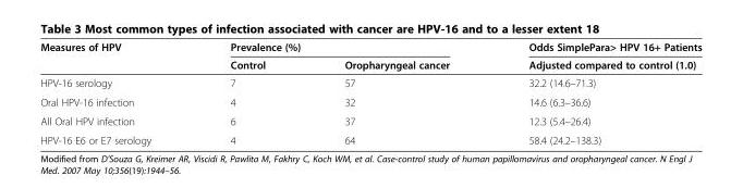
<table><thead><tr><td rowspan="2">Measures of HPV</td><td colspan="2">Prevalence (%)</td><td rowspan="2">Odds SimplePara&gt; HPV 16+ Patients Adjusted compared to control (1.0)</td></tr><tr><td>Control</td><td>Oropharyngeal cancer</td></tr></thead><tbody><tr><td>HPV-16 serology</td><td>7</td><td>57</td><td>32.2 (14.6–71.3)</td></tr><tr><td>Oral HPV-16 infection</td><td>4</td><td>32</td><td>14.6 (6.3–36.6)</td></tr><tr><td>All Oral HPV infection</td><td>6</td><td>37</td><td>12.3 (5.4–26.4)</td></tr><tr><td>HPV-16 E6 or E7 serology</td><td>4</td><td>64</td><td>58.4 (24.2–138.3)</td></tr></tbody></table>